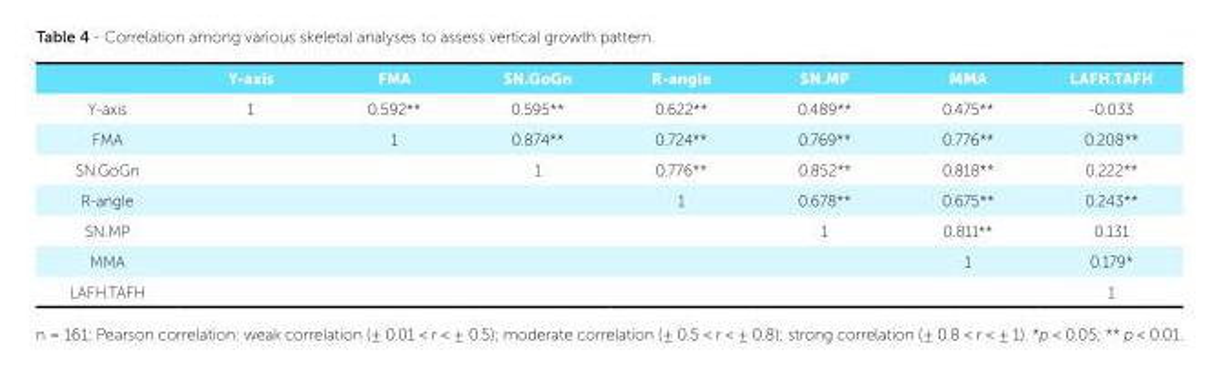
<table><thead><tr><td></td><td>Y-axis</td><td>FMA</td><td>SN.GoGn</td><td>R-angle</td><td>SN.MP</td><td>MMA</td><td>LAFH.TAFH</td></tr></thead><tbody><tr><td>Y-axis</td><td>1</td><td>0.592**</td><td>0.595**</td><td>0.622**</td><td>0.489**</td><td>0.475**</td><td>-0.033</td></tr><tr><td>FMA</td><td></td><td>1</td><td>0.874**</td><td>0.724**</td><td>0.769**</td><td>0.776**</td><td>0.208**</td></tr><tr><td>SN.GoGn</td><td></td><td></td><td>1</td><td>0.776**</td><td>0.852**</td><td>0.818**</td><td>0.222**</td></tr><tr><td>R-angle</td><td></td><td></td><td></td><td>1</td><td>0.678**</td><td>0.675**</td><td>0.243**</td></tr><tr><td>SN.MP</td><td></td><td></td><td></td><td></td><td>1</td><td>0.811**</td><td>0.131</td></tr><tr><td>MMA</td><td></td><td></td><td></td><td></td><td></td><td>1</td><td>0.179*</td></tr><tr><td>LAFH.TAFH</td><td></td><td></td><td></td><td></td><td></td><td></td><td>1</td></tr></tbody></table>